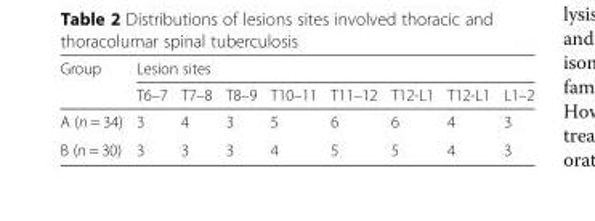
<table><thead><tr><td rowspan="2">Group</td><td colspan="8">Lesion sites</td></tr><tr><td>T6–7</td><td>T7–8</td><td>T8–9</td><td>T10–11</td><td>T11–12</td><td>T12-L1</td><td>T12-L1</td><td>L1–2</td></tr></thead><tbody><tr><td>A (n = 34)</td><td>3</td><td>4</td><td>3</td><td>5</td><td>6</td><td>6</td><td>4</td><td>3</td></tr><tr><td>B (n = 30)</td><td>3</td><td>3</td><td>3</td><td>4</td><td>5</td><td>5</td><td>4</td><td>3</td></tr></tbody></table>